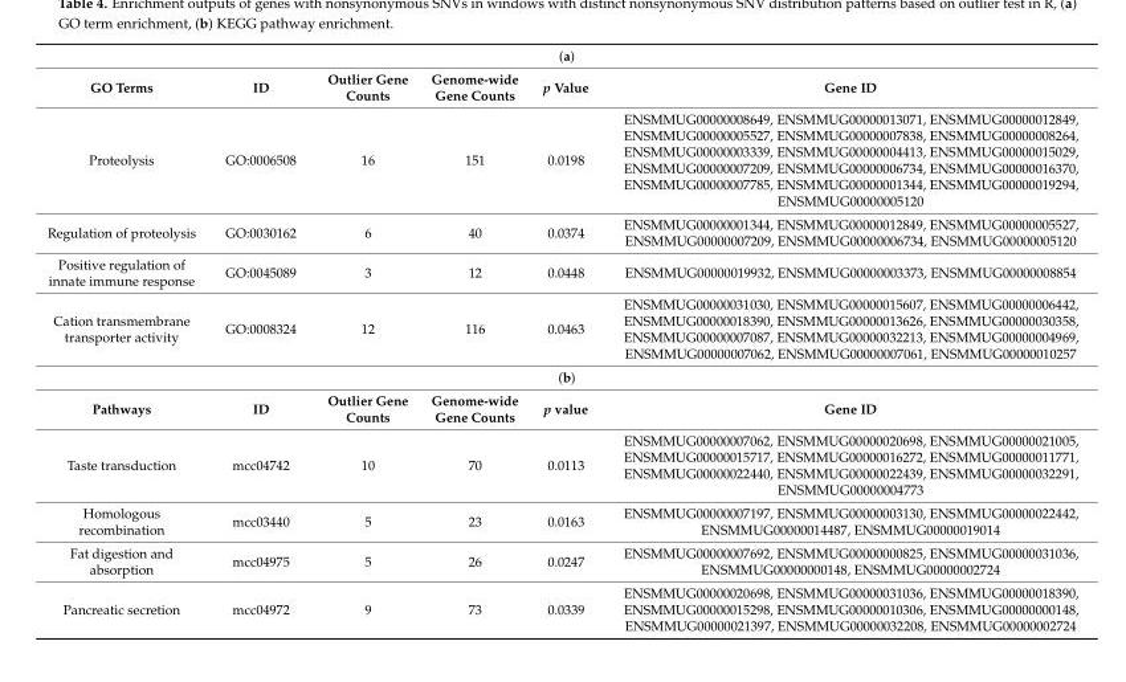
<table><tbody><tr><td colspan="6">(a)</td></tr><tr><td>GO Terms</td><td>ID</td><td>Outlier Gene Counts</td><td>Genome-wide Gene Counts</td><td>p Value</td><td>Gene ID</td></tr><tr><td>Proteolysis</td><td>GO:0006508</td><td>16</td><td>151</td><td>0.0198</td><td>ENSMMUG00000008649, ENSMMUG00000013071, ENSMMUG00000012849, ENSMMUG00000005527, ENSMMUG00000007838, ENSMMUG00000008264, ENSMMUG00000003339, ENSMMUG00000004413, ENSMMUG00000015029, ENSMMUG00000007209, ENSMMUG00000006734, ENSMMUG00000016370, ENSMMUG00000007785, ENSMMUG00000001344, ENSMMUG00000019294, ENSMMUG00000005120</td></tr><tr><td>Regulation of proteolysis</td><td>GO:0030162</td><td>6</td><td>40</td><td>0.0374</td><td>ENSMMUG00000001344, ENSMMUG00000012849, ENSMMUG00000005527, ENSMMUG00000007209, ENSMMUG00000006734, ENSMMUG00000005120</td></tr><tr><td>Positive regulation of innate immune response</td><td>GO:0045089</td><td>3</td><td>12</td><td>0.0448</td><td>ENSMMUG00000019932, ENSMMUG00000003373, ENSMMUG00000008854</td></tr><tr><td>Cation transmembrane transporter activity</td><td>GO:0008324</td><td>12</td><td>116</td><td>0.0463</td><td>ENSMMUG00000031030, ENSMMUG00000015607, ENSMMUG00000006442, ENSMMUG00000018390, ENSMMUG00000013626, ENSMMUG00000030358, ENSMMUG00000007087, ENSMMUG00000032213, ENSMMUG00000004969, ENSMMUG00000007062, ENSMMUG00000007061, ENSMMUG00000010257</td></tr><tr><td colspan="6">(b)</td></tr><tr><td>Pathways</td><td>ID</td><td>Outlier Gene Counts</td><td>Genome-wide Gene Counts</td><td>p value</td><td>Gene ID</td></tr><tr><td>Taste transduction</td><td>mcc04742</td><td>10</td><td>70</td><td>0.0113</td><td>ENSMMUG00000007062, ENSMMUG00000020698, ENSMMUG00000021005, ENSMMUG00000015717, ENSMMUG00000016272, ENSMMUG00000011771, ENSMMUG00000022440, ENSMMUG00000022439, ENSMMUG00000032291, ENSMMUG00000004773</td></tr><tr><td>Homologous recombination</td><td>mcc03440</td><td>5</td><td>23</td><td>0.0163</td><td>ENSMMUG00000007197, ENSMMUG00000003130, ENSMMUG00000022442, ENSMMUG00000014487, ENSMMUG00000019014</td></tr><tr><td>Fat digestion and absorption</td><td>mcc04975</td><td>5</td><td>26</td><td>0.0247</td><td>ENSMMUG00000007692, ENSMMUG00000000825, ENSMMUG00000031036, ENSMMUG00000000148, ENSMMUG00000002724</td></tr><tr><td>Pancreatic secretion</td><td>mcc04972</td><td>9</td><td>73</td><td>0.0339</td><td>ENSMMUG00000020698, ENSMMUG00000031036, ENSMMUG00000018390, ENSMMUG00000015298, ENSMMUG00000010306, ENSMMUG00000000148, ENSMMUG00000021397, ENSMMUG00000032208, ENSMMUG00000002724</td></tr></tbody></table>